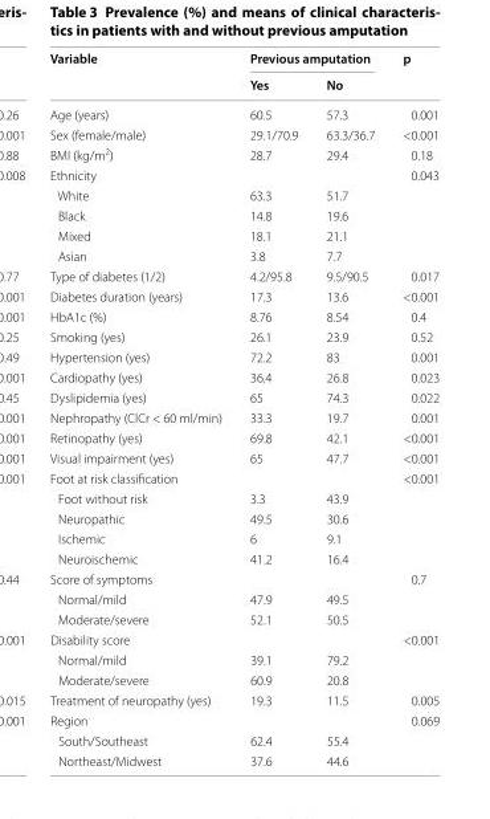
<table><thead><tr><td rowspan="2">Variable</td><td colspan="2">Previous amputation</td><td rowspan="2">p</td></tr><tr><td>Yes</td><td>No</td></tr></thead><tbody><tr><td>Age (years)</td><td>60.5</td><td>57.3</td><td>0.001</td></tr><tr><td>Sex (female/male)</td><td>29.1/70.9</td><td>63.3/36.7</td><td>&lt;0.001</td></tr><tr><td>BMI (kg/m<sup>2</sup>)</td><td>28.7</td><td>29.4</td><td>0.18</td></tr><tr><td>Ethnicity</td><td></td><td></td><td>0.043</td></tr><tr><td>White</td><td>63.3</td><td>51.7</td><td></td></tr><tr><td>Black</td><td>14.8</td><td>19.6</td><td></td></tr><tr><td>Mixed</td><td>18.1</td><td>21.1</td><td></td></tr><tr><td>Asian</td><td>3.8</td><td>7.7</td><td></td></tr><tr><td>Type of diabetes (1/2)</td><td>4.2/95.8</td><td>9.5/90.5</td><td>0.017</td></tr><tr><td>Diabetes duration (years)</td><td>17.3</td><td>13.6</td><td>&lt;0.001</td></tr><tr><td>HbA1c (%)</td><td>8.76</td><td>8.54</td><td>0.4</td></tr><tr><td>Smoking (yes)</td><td>26.1</td><td>23.9</td><td>0.52</td></tr><tr><td>Hypertension (yes)</td><td>72.2</td><td>83</td><td>0.001</td></tr><tr><td>Cardiopathy (yes)</td><td>36.4</td><td>26.8</td><td>0.023</td></tr><tr><td>Dyslipidemia (yes)</td><td>65</td><td>74.3</td><td>0.022</td></tr><tr><td>Nephropathy (ClCr &lt; 60 ml/min)</td><td>33.3</td><td>19.7</td><td>0.001</td></tr><tr><td>Retinopathy (yes)</td><td>69.8</td><td>42.1</td><td>&lt;0.001</td></tr><tr><td>Visual impairment (yes)</td><td>65</td><td>47.7</td><td>&lt;0.001</td></tr><tr><td>Foot at risk classification</td><td></td><td></td><td>&lt;0.001</td></tr><tr><td>Foot without risk</td><td>3.3</td><td>43.9</td><td></td></tr><tr><td>Neuropathic</td><td>49.5</td><td>30.6</td><td></td></tr><tr><td>Ischemic</td><td>6</td><td>9.1</td><td></td></tr><tr><td>Neuroischemic</td><td>41.2</td><td>16.4</td><td></td></tr><tr><td>Score of symptoms</td><td></td><td></td><td>0.7</td></tr><tr><td>Normal/mild</td><td>47.9</td><td>49.5</td><td></td></tr><tr><td>Moderate/severe</td><td>52.1</td><td>50.5</td><td></td></tr><tr><td>Disability score</td><td></td><td></td><td>&lt;0.001</td></tr><tr><td>Normal/mild</td><td>39.1</td><td>79.2</td><td></td></tr><tr><td>Moderate/severe</td><td>60.9</td><td>20.8</td><td></td></tr><tr><td>Treatment of neuropathy (yes)</td><td>19.3</td><td>11.5</td><td>0.005</td></tr><tr><td>Region</td><td></td><td></td><td>0.069</td></tr><tr><td>South/Southeast</td><td>62.4</td><td>55.4</td><td></td></tr><tr><td>Northeast/Midwest</td><td>37.6</td><td>44.6</td><td></td></tr></tbody></table>